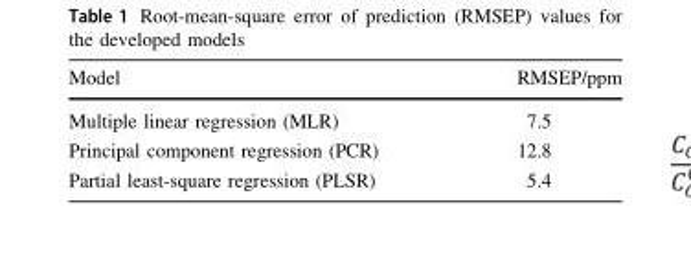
<table><thead><tr><td>Model</td><td>RMSEP/ppm</td></tr></thead><tbody><tr><td>Multiple linear regression (MLR)</td><td>7.5</td></tr><tr><td>Principal component regression (PCR)</td><td>12.8</td></tr><tr><td>Partial least-square regression (PLSR)</td><td>5.4</td></tr></tbody></table>